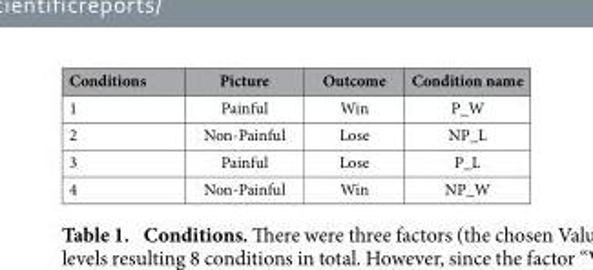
<table><thead><tr><td>Conditions</td><td>Picture</td><td>Outcome</td><td>Condition name</td></tr></thead><tbody><tr><td>1</td><td>Painful</td><td>Win</td><td>P_W</td></tr><tr><td>2</td><td>Non-Painful</td><td>Lose</td><td>NP_L</td></tr><tr><td>3</td><td>Painful</td><td>Lose</td><td>P_L</td></tr><tr><td>4</td><td>Non-Painful</td><td>Win</td><td>NP_W</td></tr></tbody></table>